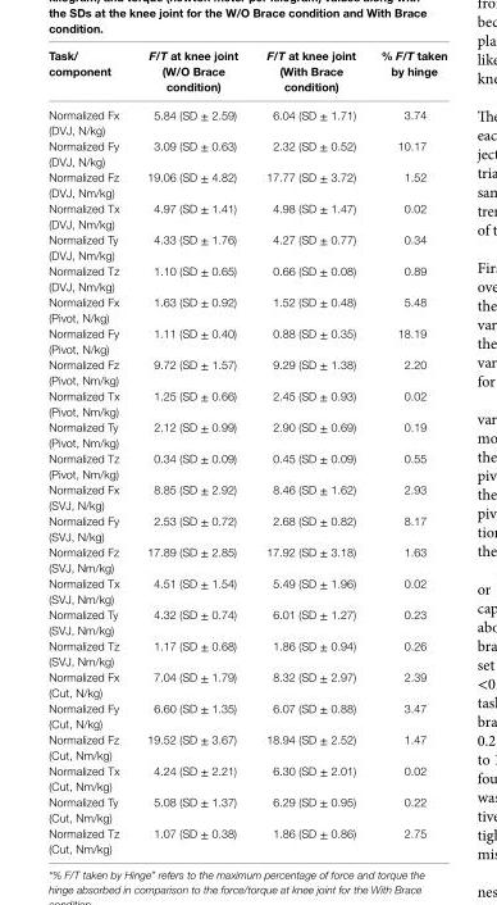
<table><thead><tr><td>Task/ component</td><td>F/T at knee joint (W/O Brace condition)</td><td>F/T at knee joint (With Brace condition)</td><td>% F/T taken by hinge</td></tr></thead><tbody><tr><td>Normalized Fx (DVJ, N/kg)</td><td>5.84 (SD ± 2.59)</td><td>6.04 (SD ± 1.71)</td><td>3.74</td></tr><tr><td>Normalized Fy (DVJ, N/kg)</td><td>3.09 (SD ± 0.63)</td><td>2.32 (SD ± 0.52)</td><td>10.17</td></tr><tr><td>Normalized Fz (DVJ, Nm/kg)</td><td>19.06 (SD ± 4.82)</td><td>17.77 (SD ± 3.72)</td><td>1.52</td></tr><tr><td>Normalized Tx (DVJ, Nm/kg)</td><td>4.97 (SD ± 1.41)</td><td>4.98 (SD ± 1.47)</td><td>0.02</td></tr><tr><td>Normalized Ty (DVJ, Nm/kg)</td><td>4.33 (SD ± 1.76)</td><td>4.27 (SD ± 0.77)</td><td>0.34</td></tr><tr><td>Normalized Tz (DVJ, Nm/kg)</td><td>1.10 (SD ± 0.65)</td><td>0.66 (SD ± 0.08)</td><td>0.89</td></tr><tr><td>Normalized Fx (Pivot, N/kg)</td><td>1.63 (SD ± 0.92)</td><td>1.52 (SD ± 0.48)</td><td>5.48</td></tr><tr><td>Normalized Fy (Pivot, N/kg)</td><td>1.11 (SD ± 0.40)</td><td>0.88 (SD ± 0.35)</td><td>18.19</td></tr><tr><td>Normalized Fz (Pivot, Nm/kg)</td><td>9.72 (SD ± 1.57)</td><td>9.29 (SD ± 1.38)</td><td>2.20</td></tr><tr><td>Normalized Tx (Pivot, Nm/kg)</td><td>1.25 (SD ± 0.66)</td><td>2.45 (SD ± 0.93)</td><td>0.02</td></tr><tr><td>Normalized Ty (Pivot, Nm/kg)</td><td>2.12 (SD ± 0.99)</td><td>2.90 (SD ± 0.69)</td><td>0.19</td></tr><tr><td>Normalized Tz (Pivot, Nm/kg)</td><td>0.34 (SD ± 0.09)</td><td>0.45 (SD ± 0.09)</td><td>0.55</td></tr><tr><td>Normalized Fx (SVJ, N/kg)</td><td>8.85 (SD ± 2.92)</td><td>8.46 (SD ± 1.62)</td><td>2.93</td></tr><tr><td>Normalized Fy (SVJ, N/kg)</td><td>2.53 (SD ± 0.72)</td><td>2.68 (SD ± 0.82)</td><td>8.17</td></tr><tr><td>Normalized Fz (SVJ, Nm/kg)</td><td>17.89 (SD ± 2.85)</td><td>17.92 (SD ± 3.18)</td><td>1.63</td></tr><tr><td>Normalized Tx (SVJ, Nm/kg)</td><td>4.51 (SD ± 1.54)</td><td>5.49 (SD ± 1.96)</td><td>0.02</td></tr><tr><td>Normalized Ty (SVJ, Nm/kg)</td><td>4.32 (SD ± 0.74)</td><td>6.01 (SD ± 1.27)</td><td>0.23</td></tr><tr><td>Normalized Tz (SVJ, Nm/kg)</td><td>1.17 (SD ± 0.68)</td><td>1.86 (SD ± 0.94)</td><td>0.26</td></tr><tr><td>Normalized Fx (Cut, N/kg)</td><td>7.04 (SD ± 1.79)</td><td>8.32 (SD ± 2.97)</td><td>2.39</td></tr><tr><td>Normalized Fy (Cut, N/kg)</td><td>6.60 (SD ± 1.35)</td><td>6.07 (SD ± 0.88)</td><td>3.47</td></tr><tr><td>Normalized Fz (Cut, Nm/kg)</td><td>19.52 (SD ± 3.67)</td><td>18.94 (SD ± 2.52)</td><td>1.47</td></tr><tr><td>Normalized Tx (Cut, Nm/kg)</td><td>4.24 (SD ± 2.21)</td><td>6.30 (SD ± 2.01)</td><td>0.02</td></tr><tr><td>Normalized Ty (Cut, Nm/kg)</td><td>5.08 (SD ± 1.37)</td><td>6.29 (SD ± 0.95)</td><td>0.22</td></tr><tr><td>Normalized Tz (Cut, Nm/kg)</td><td>1.07 (SD ± 0.38)</td><td>1.86 (SD ± 0.86)</td><td>2.75</td></tr></tbody></table>